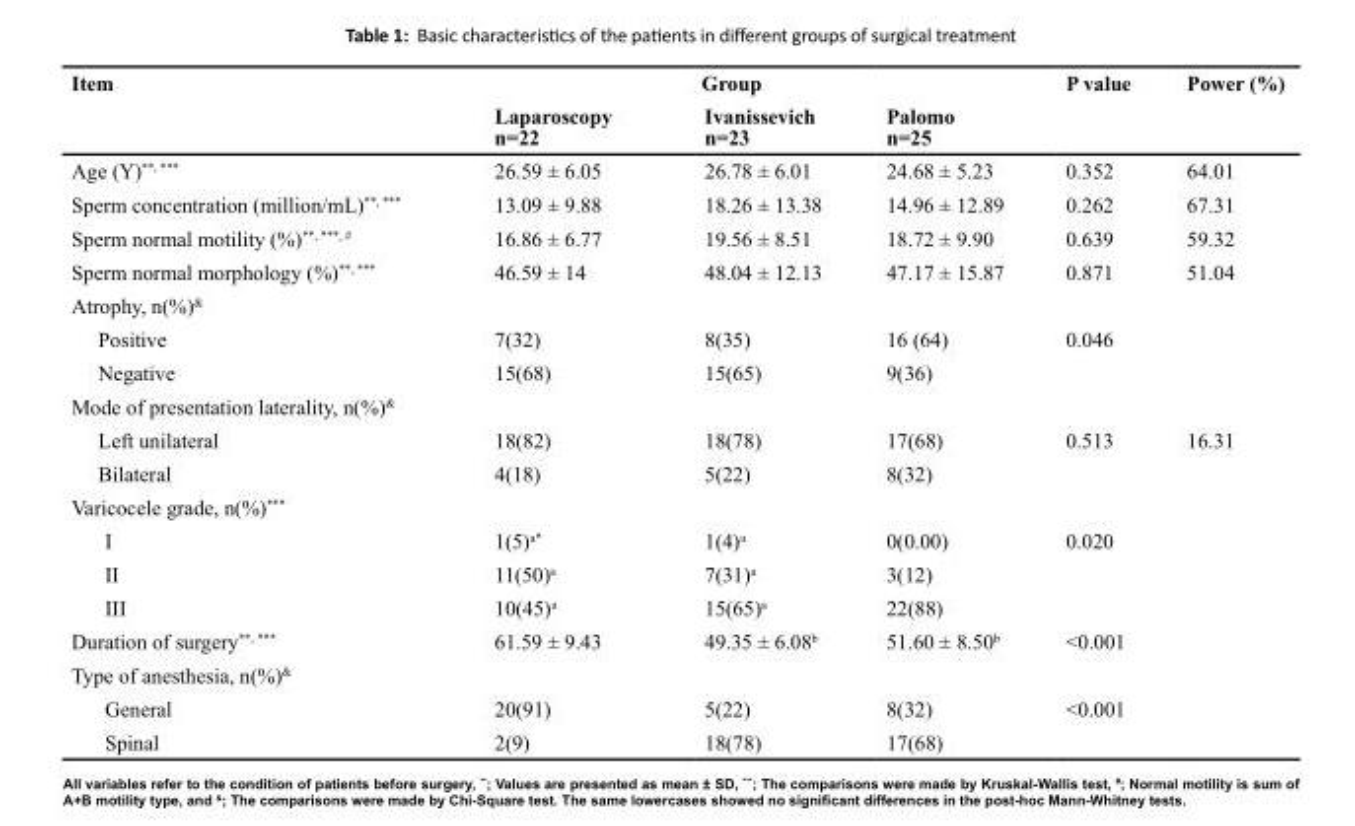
<table><thead><tr><td rowspan="2">Item</td><td colspan="3">Group</td><td rowspan="2">P value</td><td rowspan="2">Power (%)</td></tr><tr><td>Laparoscopy n=22</td><td>Ivanissevich n=23</td><td>Palomo n=25</td></tr></thead><tbody><tr><td>Age (Y)<sup>**, ***</sup></td><td>26.59 ± 6.05</td><td>26.78 ± 6.01</td><td>24.68 ± 5.23</td><td>0.352</td><td>64.01</td></tr><tr><td>Sperm concentration (million/mL)<sup>**, ***</sup></td><td>13.09 ± 9.88</td><td>18.26 ± 13.38</td><td>14.96 ± 12.89</td><td>0.262</td><td>67.31</td></tr><tr><td>Sperm normal motility (%)<sup>**, ***, #</sup></td><td>16.86 ± 6.77</td><td>19.56 ± 8.51</td><td>18.72 ± 9.90</td><td>0.639</td><td>59.32</td></tr><tr><td>Sperm normal morphology (%)<sup>**, ***</sup></td><td>46.59 ± 14</td><td>48.04 ± 12.13</td><td>47.17 ± 15.87</td><td>0.871</td><td>51.04</td></tr><tr><td colspan="6">Atrophy, n(%)<sup>&amp;</sup></td></tr><tr><td>Positive</td><td>7(32)</td><td>8(35)</td><td>16 (64)</td><td>0.046</td><td></td></tr><tr><td>Negative</td><td>15(68)</td><td>15(65)</td><td>9(36)</td><td></td><td></td></tr><tr><td colspan="6">Mode of presentation laterality, n(%)<sup>&amp;</sup></td></tr><tr><td>Left unilateral</td><td>18(82)</td><td>18(78)</td><td>17(68)</td><td>0.513</td><td>16.31</td></tr><tr><td>Bilateral</td><td>4(18)</td><td>5(22)</td><td>8(32)</td><td></td><td></td></tr><tr><td colspan="6">Varicocele grade, n(%)***</td></tr><tr><td>I</td><td>1(5)<sup>a*</sup></td><td>1(4)<sup>a</sup></td><td>0(0.00)</td><td>0.020</td><td></td></tr><tr><td>II</td><td>11(50)<sup>a</sup></td><td>7(31)<sup>a</sup></td><td>3(12)</td><td></td><td></td></tr><tr><td>III</td><td>10(45)<sup>a</sup></td><td>15(65)<sup>a</sup></td><td>22(88)</td><td></td><td></td></tr><tr><td>Duration of surgery<sup>**, ***</sup></td><td>61.59 ± 9.43</td><td>49.35 ± 6.08<sup>b</sup></td><td>51.60 ± 8.50<sup>b</sup></td><td>&lt;0.001</td><td></td></tr><tr><td colspan="6">Type of anesthesia, n(%)<sup>&amp;</sup></td></tr><tr><td>General</td><td>20(91)</td><td>5(22)</td><td>8(32)</td><td>&lt;0.001</td><td></td></tr><tr><td>Spinal</td><td>2(9)</td><td>18(78)</td><td>17(68)</td><td></td><td></td></tr></tbody></table>